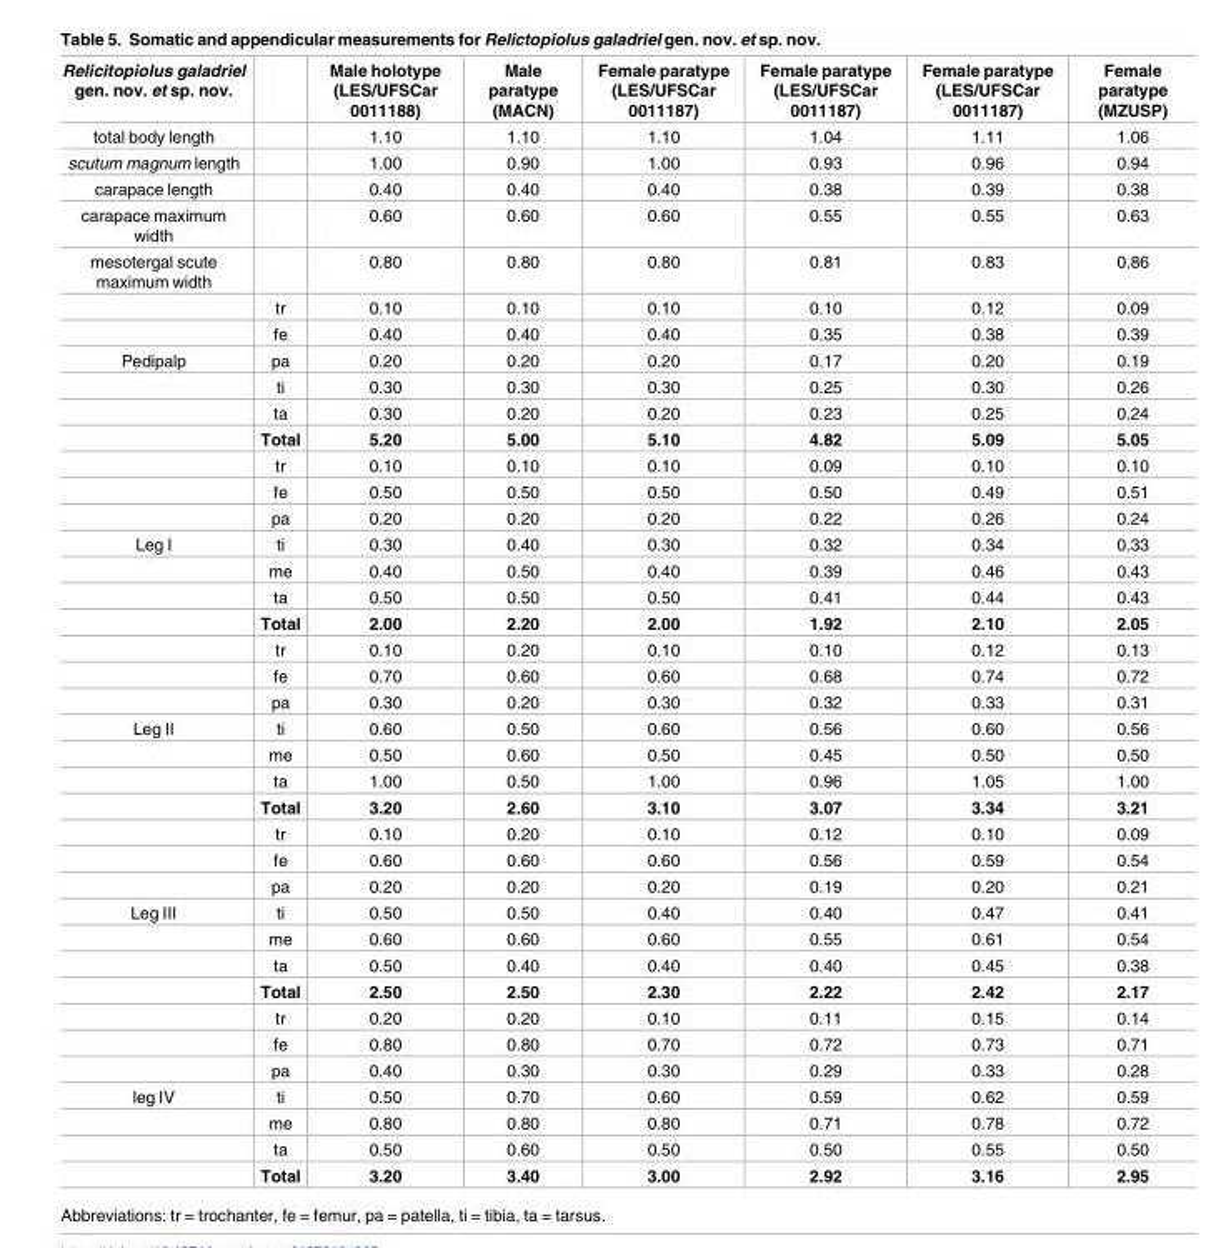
<table><thead><tr><td>Relicitopiolus galadriel gen. nov. et sp. nov.</td><td></td><td>Male holotype (LES/UFSCar 0011188)</td><td>Male paratype (MACN)</td><td>Female paratype (LES/UFSCar 0011187)</td><td>Female paratype (LES/UFSCar 0011187)</td><td>Female paratype (LES/UFSCar 0011187)</td><td>Female paratype (MZUSP)</td></tr></thead><tbody><tr><td>total body length</td><td></td><td>1.10</td><td>1.10</td><td>1.10</td><td>1.04</td><td>1.11</td><td>1.06</td></tr><tr><td>scutum magnum length</td><td></td><td>1.00</td><td>0.90</td><td>1.00</td><td>0.93</td><td>0.96</td><td>0.94</td></tr><tr><td>carapace length</td><td></td><td>0.40</td><td>0.40</td><td>0.40</td><td>0.38</td><td>0.39</td><td>0.38</td></tr><tr><td>carapace maximum width</td><td></td><td>0.60</td><td>0.60</td><td>0.60</td><td>0.55</td><td>0.55</td><td>0.63</td></tr><tr><td rowspan="3">mesotergal scute maximum width</td><td></td><td>0.80</td><td>0.80</td><td>0.80</td><td>0.81</td><td>0.83</td><td>0.86</td></tr><tr><td>tr</td><td>0.10</td><td>0.10</td><td>0.10</td><td>0.10</td><td>0.12</td><td>0.09</td></tr><tr><td>fe</td><td>0.40</td><td>0.40</td><td>0.40</td><td>0.35</td><td>0.38</td><td>0.39</td></tr><tr><td rowspan="7">Pedipalp</td><td>pa</td><td>0.20</td><td>0.20</td><td>0.20</td><td>0.17</td><td>0.20</td><td>0.19</td></tr><tr><td>ti</td><td>0.30</td><td>0.30</td><td>0.30</td><td>0.25</td><td>0.30</td><td>0.26</td></tr><tr><td>ta</td><td>0.30</td><td>0.20</td><td>0.20</td><td>0.23</td><td>0.25</td><td>0.24</td></tr><tr><td>Total</td><td>5.20</td><td>5.00</td><td>5.10</td><td>4.82</td><td>5.09</td><td>5.05</td></tr><tr><td>tr</td><td>0.10</td><td>0.10</td><td>0.10</td><td>0.09</td><td>0.10</td><td>0.10</td></tr><tr><td>fe</td><td>0.50</td><td>0.50</td><td>0.50</td><td>0.50</td><td>0.49</td><td>0.51</td></tr><tr><td>pa</td><td>0.20</td><td>0.20</td><td>0.20</td><td>0.22</td><td>0.26</td><td>0.24</td></tr><tr><td rowspan="7">Leg I</td><td>ti</td><td>0.30</td><td>0.40</td><td>0.30</td><td>0.32</td><td>0.34</td><td>0.33</td></tr><tr><td>me</td><td>0.40</td><td>0.50</td><td>0.40</td><td>0.39</td><td>0.46</td><td>0.43</td></tr><tr><td>ta</td><td>0.50</td><td>0.50</td><td>0.50</td><td>0.41</td><td>0.44</td><td>0.43</td></tr><tr><td>Total</td><td>2.00</td><td>2.20</td><td>2.00</td><td>1.92</td><td>2.10</td><td>2.05</td></tr><tr><td>tr</td><td>0.10</td><td>0.20</td><td>0.10</td><td>0.10</td><td>0.12</td><td>0.13</td></tr><tr><td>fe</td><td>0.70</td><td>0.60</td><td>0.60</td><td>0.68</td><td>0.74</td><td>0.72</td></tr><tr><td>pa</td><td>0.30</td><td>0.20</td><td>0.30</td><td>0.32</td><td>0.33</td><td>0.31</td></tr><tr><td rowspan="7">Leg II</td><td>ti</td><td>0.60</td><td>0.50</td><td>0.60</td><td>0.56</td><td>0.60</td><td>0.56</td></tr><tr><td>me</td><td>0.50</td><td>0.60</td><td>0.50</td><td>0.45</td><td>0.50</td><td>0.50</td></tr><tr><td>ta</td><td>1.00</td><td>0.50</td><td>1.00</td><td>0.96</td><td>1.05</td><td>1.00</td></tr><tr><td>Total</td><td>3.20</td><td>2.60</td><td>3.10</td><td>3.07</td><td>3.34</td><td>3.21</td></tr><tr><td>tr</td><td>0.10</td><td>0.20</td><td>0.10</td><td>0.12</td><td>0.10</td><td>0.09</td></tr><tr><td>fe</td><td>0.60</td><td>0.60</td><td>0.60</td><td>0.56</td><td>0.59</td><td>0.54</td></tr><tr><td>pa</td><td>0.20</td><td>0.20</td><td>0.20</td><td>0.19</td><td>0.20</td><td>0.21</td></tr><tr><td rowspan="7">Leg III</td><td>ti</td><td>0.50</td><td>0.50</td><td>0.40</td><td>0.40</td><td>0.47</td><td>0.41</td></tr><tr><td>me</td><td>0.60</td><td>0.60</td><td>0.60</td><td>0.55</td><td>0.61</td><td>0.54</td></tr><tr><td>ta</td><td>0.50</td><td>0.40</td><td>0.40</td><td>0.40</td><td>0.45</td><td>0.38</td></tr><tr><td>Total</td><td>2.50</td><td>2.50</td><td>2.30</td><td>2.22</td><td>2.42</td><td>2.17</td></tr><tr><td>tr</td><td>0.20</td><td>0.20</td><td>0.10</td><td>0.11</td><td>0.15</td><td>0.14</td></tr><tr><td>fe</td><td>0.80</td><td>0.80</td><td>0.70</td><td>0.72</td><td>0.73</td><td>0.71</td></tr><tr><td>pa</td><td>0.40</td><td>0.30</td><td>0.30</td><td>0.29</td><td>0.33</td><td>0.28</td></tr><tr><td rowspan="4">leg IV</td><td>ti</td><td>0.50</td><td>0.70</td><td>0.60</td><td>0.59</td><td>0.62</td><td>0.59</td></tr><tr><td>me</td><td>0.80</td><td>0.80</td><td>0.80</td><td>0.71</td><td>0.78</td><td>0.72</td></tr><tr><td>ta</td><td>0.50</td><td>0.60</td><td>0.50</td><td>0.50</td><td>0.55</td><td>0.50</td></tr><tr><td>Total</td><td>3.20</td><td>3.40</td><td>3.00</td><td>2.92</td><td>3.16</td><td>2.95</td></tr></tbody></table>